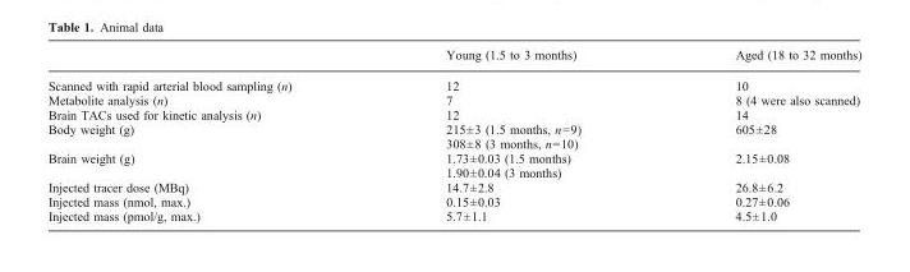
<table><thead><tr><td></td><td>Young (1.5 to 3 months)</td><td>Aged (18 to 32 months)</td></tr></thead><tbody><tr><td>Scanned with rapid arterial blood sampling (n)</td><td>12</td><td>10</td></tr><tr><td>Metabolite analysis (n)</td><td>7</td><td>8 (4 were also scanned)</td></tr><tr><td>Brain TACs used for kinetic analysis (n)</td><td>12</td><td>14</td></tr><tr><td rowspan="2">Body weight (g)</td><td>215±3 (1.5 months, n=9)</td><td rowspan="2">605±28</td></tr><tr><td>308±8 (3 months, n=10)</td></tr><tr><td rowspan="2">Brain weight (g)</td><td>1.73±0.03 (1.5 months)</td><td rowspan="2">2.15±0.08</td></tr><tr><td>1.90±0.04 (3 months)</td></tr><tr><td>Injected tracer dose (MBq)</td><td>14.7±2.8</td><td>26.8±6.2</td></tr><tr><td>Injected mass (nmol, max.)</td><td>0.15±0.03</td><td>0.27±0.06</td></tr><tr><td>Injected mass (pmol/g, max.)</td><td>5.7±1.1</td><td>4.5±1.0</td></tr></tbody></table>